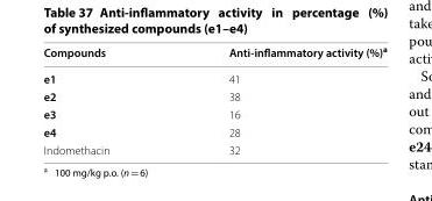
<table><thead><tr><td>Compounds</td><td>Anti-inflammatory activity (%)<sup>a</sup></td></tr></thead><tbody><tr><td>e1</td><td>41</td></tr><tr><td>e2</td><td>38</td></tr><tr><td>e3</td><td>16</td></tr><tr><td>e4</td><td>28</td></tr><tr><td>Indomethacin</td><td>32</td></tr></tbody></table>